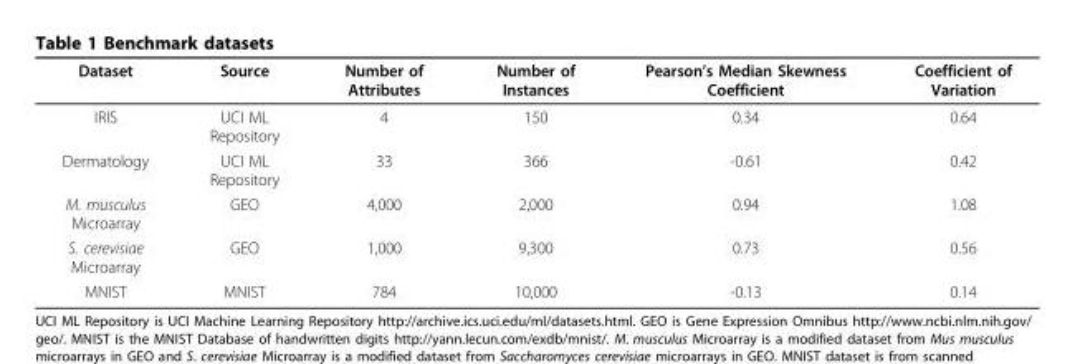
<table><thead><tr><td>Dataset</td><td>Source</td><td>Number of Attributes</td><td>Number of Instances</td><td>Pearson’s Median Skewness Coefficient</td><td>Coefficient of Variation</td></tr></thead><tbody><tr><td>IRIS</td><td>UCI ML Repository</td><td>4</td><td>150</td><td>0.34</td><td>0.64</td></tr><tr><td>Dermatology</td><td>UCI ML Repository</td><td>33</td><td>366</td><td>-0.61</td><td>0.42</td></tr><tr><td>M. musculus Microarray</td><td>GEO</td><td>4,000</td><td>2,000</td><td>0.94</td><td>1.08</td></tr><tr><td>S. cerevisiae Microarray</td><td>GEO</td><td>1,000</td><td>9,300</td><td>0.73</td><td>0.56</td></tr><tr><td>MNIST</td><td>MNIST</td><td>784</td><td>10,000</td><td>-0.13</td><td>0.14</td></tr></tbody></table>